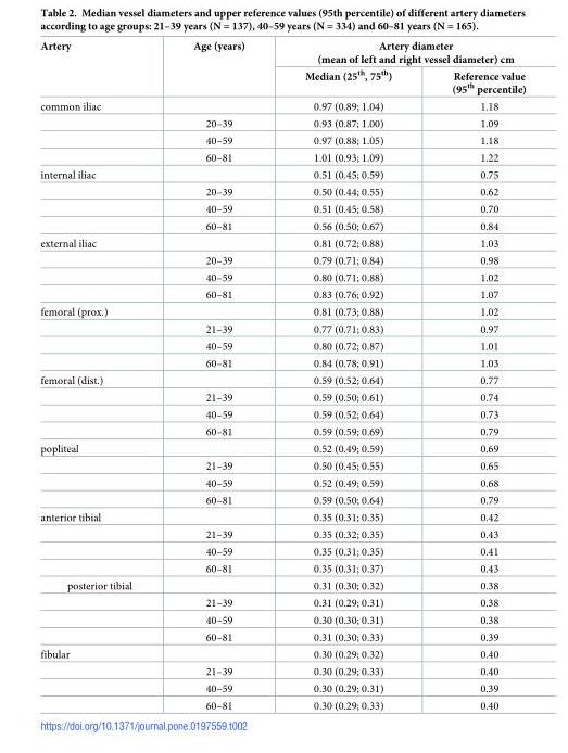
<table><thead><tr><td rowspan="2">Artery</td><td rowspan="2">Age (years)</td><td colspan="2">Artery diameter (mean of left and right vessel diameter) cm</td></tr><tr><td>Median (25<sup>th</sup>, 75<sup>th</sup>)</td><td>Reference value (95<sup>th</sup> percentile)</td></tr></thead><tbody><tr><td rowspan="4">common iliac</td><td></td><td>0.97 (0.89; 1.04)</td><td>1.18</td></tr><tr><td>20–39</td><td>0.93 (0.87; 1.00)</td><td>1.09</td></tr><tr><td>40–59</td><td>0.97 (0.88; 1.05)</td><td>1.18</td></tr><tr><td>60–81</td><td>1.01 (0.93; 1.09)</td><td>1.22</td></tr><tr><td rowspan="4">internal iliac</td><td></td><td>0.51 (0.45; 0.59)</td><td>0.75</td></tr><tr><td>20–39</td><td>0.50 (0.44; 0.55)</td><td>0.62</td></tr><tr><td>40–59</td><td>0.51 (0.45; 0.58)</td><td>0.70</td></tr><tr><td>60–81</td><td>0.56 (0.50; 0.67)</td><td>0.84</td></tr><tr><td rowspan="4">external iliac</td><td></td><td>0.81 (0.72; 0.88)</td><td>1.03</td></tr><tr><td>20–39</td><td>0.79 (0.71; 0.84)</td><td>0.98</td></tr><tr><td>40–59</td><td>0.80 (0.71; 0.88)</td><td>1.02</td></tr><tr><td>60–81</td><td>0.83 (0.76; 0.92)</td><td>1.07</td></tr><tr><td rowspan="4">femoral (prox.)</td><td></td><td>0.81 (0.73; 0.88)</td><td>1.02</td></tr><tr><td>21–39</td><td>0.77 (0.71; 0.83)</td><td>0.97</td></tr><tr><td>40–59</td><td>0.80 (0.72; 0.87)</td><td>1.01</td></tr><tr><td>60–81</td><td>0.84 (0.78; 0.91)</td><td>1.03</td></tr><tr><td rowspan="4">femoral (dist.)</td><td></td><td>0.59 (0.52; 0.64)</td><td>0.77</td></tr><tr><td>21–39</td><td>0.59 (0.50; 0.61)</td><td>0.74</td></tr><tr><td>40–59</td><td>0.59 (0.52; 0.64)</td><td>0.73</td></tr><tr><td>60–81</td><td>0.59 (0.59; 0.69)</td><td>0.79</td></tr><tr><td rowspan="4">popliteal</td><td></td><td>0.52 (0.49; 0.59)</td><td>0.69</td></tr><tr><td>21–39</td><td>0.50 (0.45; 0.55)</td><td>0.65</td></tr><tr><td>40–59</td><td>0.52 (0.49; 0.59)</td><td>0.68</td></tr><tr><td>60–81</td><td>0.59 (0.50; 0.64)</td><td>0.79</td></tr><tr><td rowspan="4">anterior tibial</td><td></td><td>0.35 (0.31; 0.35)</td><td>0.42</td></tr><tr><td>21–39</td><td>0.35 (0.32; 0.35)</td><td>0.43</td></tr><tr><td>40–59</td><td>0.35 (0.31; 0.35)</td><td>0.41</td></tr><tr><td>60–81</td><td>0.35 (0.31; 0.37)</td><td>0.43</td></tr><tr><td rowspan="4">posterior tibial</td><td></td><td>0.31 (0.30; 0.32)</td><td>0.38</td></tr><tr><td>21–39</td><td>0.31 (0.29; 0.31)</td><td>0.38</td></tr><tr><td>40–59</td><td>0.30 (0.30; 0.31)</td><td>0.38</td></tr><tr><td>60–81</td><td>0.31 (0.30; 0.33)</td><td>0.39</td></tr><tr><td rowspan="4">fibular</td><td></td><td>0.30 (0.29; 0.32)</td><td>0.40</td></tr><tr><td>21–39</td><td>0.30 (0.29; 0.33)</td><td>0.40</td></tr><tr><td>40–59</td><td>0.30 (0.29; 0.31)</td><td>0.39</td></tr><tr><td>60–81</td><td>0.30 (0.29; 0.33)</td><td>0.40</td></tr></tbody></table>